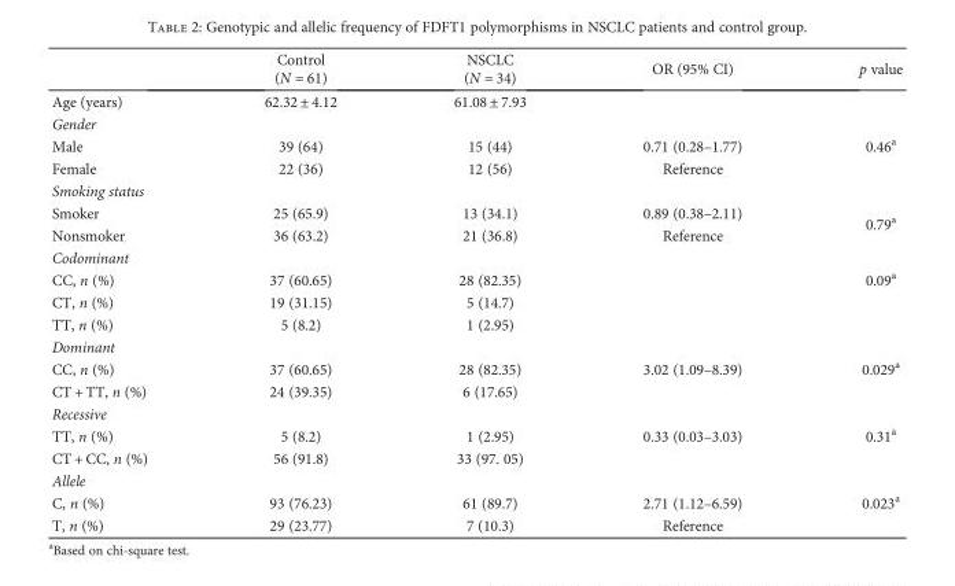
<table><thead><tr><td></td><td>Control (N = 61)</td><td>NSCLC (N = 34)</td><td>OR (95% CI)</td><td>p value</td></tr></thead><tbody><tr><td>Age (years)</td><td>62.32 ± 4.12</td><td>61.08 ± 7.93</td><td></td><td></td></tr><tr><td colspan="4">Gender</td><td rowspan="3">0.46<sup>a</sup></td></tr><tr><td>Male</td><td>39 (64)</td><td>15 (44)</td><td>0.71 (0.28–1.77)</td></tr><tr><td>Female</td><td>22 (36)</td><td>12 (56)</td><td>Reference</td></tr><tr><td colspan="5">Smoking status</td></tr><tr><td>Smoker</td><td>25 (65.9)</td><td>13 (34.1)</td><td>0.89 (0.38–2.11)</td><td rowspan="2">0.79<sup>a</sup></td></tr><tr><td>Nonsmoker</td><td>36 (63.2)</td><td>21 (36.8)</td><td>Reference</td></tr><tr><td colspan="5">Codominant</td></tr><tr><td>CC, n (%)</td><td>37 (60.65)</td><td>28 (82.35)</td><td></td><td>0.09<sup>a</sup></td></tr><tr><td>CT, n (%)</td><td>19 (31.15)</td><td>5 (14.7)</td><td></td><td></td></tr><tr><td>TT, n (%)</td><td>5 (8.2)</td><td>1 (2.95)</td><td></td><td></td></tr><tr><td colspan="5">Dominant</td></tr><tr><td>CC, n (%)</td><td>37 (60.65)</td><td>28 (82.35)</td><td>3.02 (1.09–8.39)</td><td>0.029<sup>a</sup></td></tr><tr><td>CT + TT, n (%)</td><td>24 (39.35)</td><td>6 (17.65)</td><td></td><td></td></tr><tr><td colspan="5">Recessive</td></tr><tr><td>TT, n (%)</td><td>5 (8.2)</td><td>1 (2.95)</td><td>0.33 (0.03–3.03)</td><td>0.31<sup>a</sup></td></tr><tr><td>CT + CC, n (%)</td><td>56 (91.8)</td><td>33 (97. 05)</td><td></td><td></td></tr><tr><td colspan="5">Allele</td></tr><tr><td>C, n (%)</td><td>93 (76.23)</td><td>61 (89.7)</td><td>2.71 (1.12–6.59)</td><td>0.023<sup>a</sup></td></tr><tr><td>T, n (%)</td><td>29 (23.77)</td><td>7 (10.3)</td><td>Reference</td><td></td></tr></tbody></table>